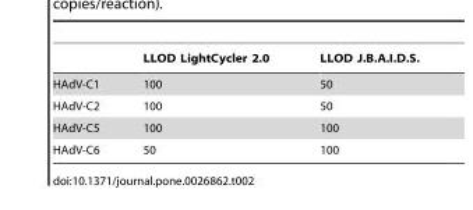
<table><thead><tr><td></td><td>LLOD LightCycler 2.0</td><td>LLOD J.B.A.I.D.S.</td></tr></thead><tbody><tr><td>HAdV-C1</td><td>100</td><td>50</td></tr><tr><td>HAdV-C2</td><td>100</td><td>50</td></tr><tr><td>HAdV-C5</td><td>100</td><td>100</td></tr><tr><td>HAdV-C6</td><td>50</td><td>100</td></tr></tbody></table>